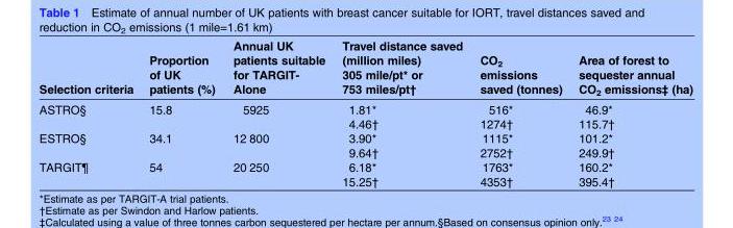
<table><thead><tr><td>Selection criteria</td><td>Proportion of UK patients (%)</td><td>Annual UK patients suitable for TARGIT- Alone</td><td>Travel distance saved (million miles) 305 mile/pt* or 753 miles/pt†</td><td>CO<sub>2</sub> emissions saved (tonnes)</td><td>Area of forest to sequester annual CO<sub>2</sub> emissions‡ (ha)</td></tr></thead><tbody><tr><td rowspan="2">ASTRO§</td><td>15.8</td><td>5925</td><td>1.81*</td><td>516*</td><td>46.9*</td></tr><tr><td></td><td></td><td>4.46†</td><td>1274†</td><td>115.7†</td></tr><tr><td rowspan="2">ESTRO§</td><td>34.1</td><td>12 800</td><td>3.90*</td><td>1115*</td><td>101.2*</td></tr><tr><td></td><td></td><td>9.64†</td><td>2752†</td><td>249.9†</td></tr><tr><td rowspan="2">TARGIT¶</td><td>54</td><td>20 250</td><td>6.18*</td><td>1763*</td><td>160.2*</td></tr><tr><td></td><td></td><td>15.25†</td><td>4353†</td><td>395.4†</td></tr></tbody></table>